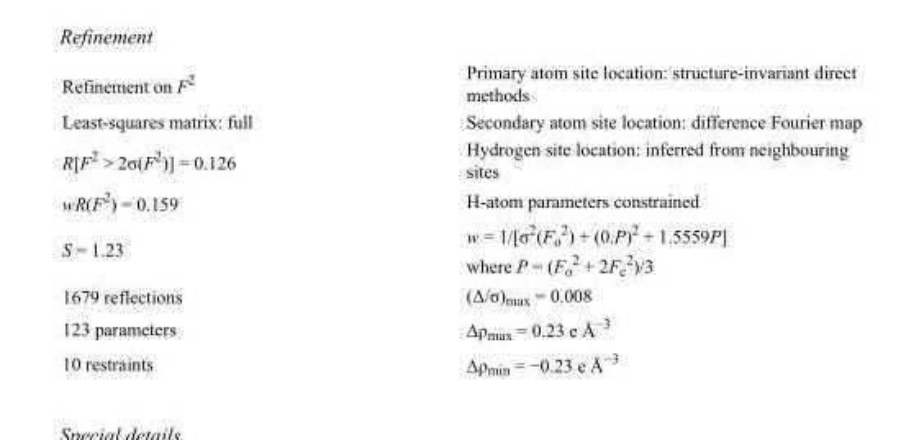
<table><tbody><tr><td>Refinement on F<sup>2</sup></td><td>Primary atom site location: structure-invariant direct methods</td></tr><tr><td>Least-squares matrix: full</td><td>Secondary atom site location: difference Fourier map</td></tr><tr><td>R[F<sup>2</sup> &gt; 2σ(F<sup>2</sup>)] = 0.126</td><td>Hydrogen site location: inferred from neighbouring sites</td></tr><tr><td>wR(F<sup>2</sup>) = 0.159</td><td>H-atom parameters constrained</td></tr><tr><td>S = 1.23</td><td>w = 1/[σ<sup>2</sup>(F<sub>o</sub> <sup>2</sup>) + (0.P)<sup>2</sup> + 1.5559P] where P = (F<sub>o</sub> <sup>2</sup> + 2F<sub>c</sub> <sup>2</sup>)/3</td></tr><tr><td>1679 reflections</td><td>(Δ/σ)<sub>max</sub> = 0.008</td></tr><tr><td>123 parameters</td><td>Δρ<sub>max</sub> = 0.23 e Å<sup>−3</sup></td></tr><tr><td>10 restraints</td><td>Δρ<sub>min</sub> = −0.23 e Å<sup>−3</sup></td></tr></tbody></table>